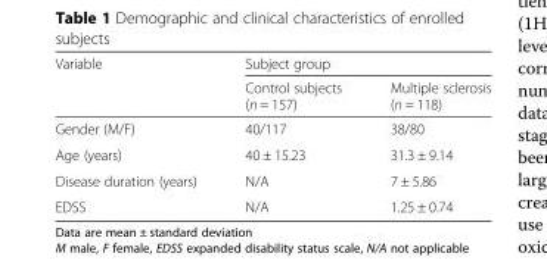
<table><thead><tr><td rowspan="2">Variable</td><td colspan="2">Subject group</td></tr><tr><td>Control subjects (n = 157)</td><td>Multiple sclerosis (n = 118)</td></tr></thead><tbody><tr><td>Gender (M/F)</td><td>40/117</td><td>38/80</td></tr><tr><td>Age (years)</td><td>40 ± 15.23</td><td>31.3 ± 9.14</td></tr><tr><td>Disease duration (years)</td><td>N/A</td><td>7 ± 5.86</td></tr><tr><td>EDSS</td><td>N/A</td><td>1.25 ± 0.74</td></tr></tbody></table>